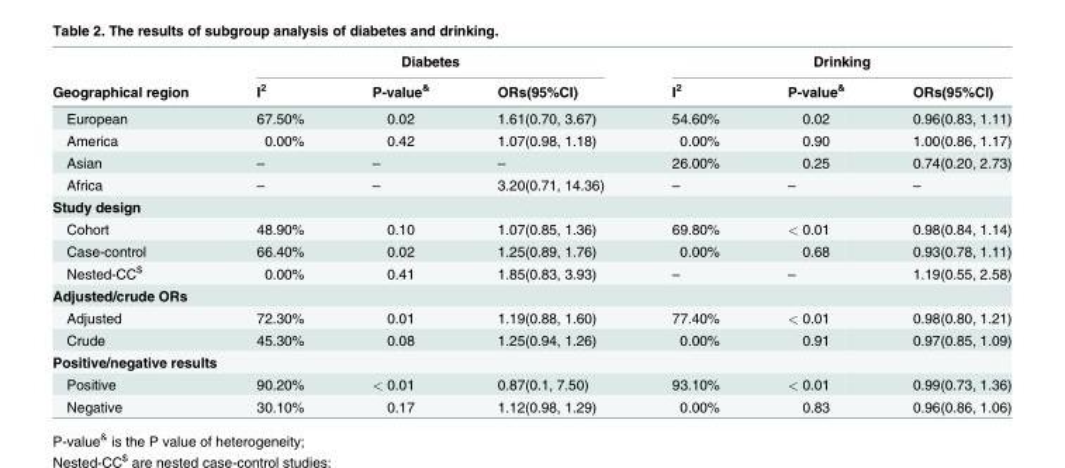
<table><thead><tr><td rowspan="2">Geographical region</td><td colspan="3">Diabetes</td><td colspan="3">Drinking</td></tr><tr><td>I<sup>2</sup></td><td>P-value<sup>&amp;</sup></td><td>ORs(95%CI)</td><td>I<sup>2</sup></td><td>P-value<sup>&amp;</sup></td><td>ORs(95%CI)</td></tr></thead><tbody><tr><td>European</td><td>67.50%</td><td>0.02</td><td>1.61(0.70, 3.67)</td><td>54.60%</td><td>0.02</td><td>0.96(0.83, 1.11)</td></tr><tr><td>America</td><td>0.00%</td><td>0.42</td><td>1.07(0.98, 1.18)</td><td>0.00%</td><td>0.90</td><td>1.00(0.86, 1.17)</td></tr><tr><td>Asian</td><td>–</td><td>–</td><td>–</td><td>26.00%</td><td>0.25</td><td>0.74(0.20, 2.73)</td></tr><tr><td>Africa</td><td>–</td><td>–</td><td>3.20(0.71, 14.36)</td><td>–</td><td>–</td><td>–</td></tr><tr><td colspan="7">Study design</td></tr><tr><td>Cohort</td><td>48.90%</td><td>0.10</td><td>1.07(0.85, 1.36)</td><td>69.80%</td><td>&lt; 0.01</td><td>0.98(0.84, 1.14)</td></tr><tr><td>Case-control</td><td>66.40%</td><td>0.02</td><td>1.25(0.89, 1.76)</td><td>0.00%</td><td>0.68</td><td>0.93(0.78, 1.11)</td></tr><tr><td>Nested-CC<sup>$</sup></td><td>0.00%</td><td>0.41</td><td>1.85(0.83, 3.93)</td><td>–</td><td>–</td><td>1.19(0.55, 2.58)</td></tr><tr><td colspan="7">Adjusted/crude ORs</td></tr><tr><td>Adjusted</td><td>72.30%</td><td>0.01</td><td>1.19(0.88, 1.60)</td><td>77.40%</td><td>&lt; 0.01</td><td>0.98(0.80, 1.21)</td></tr><tr><td>Crude</td><td>45.30%</td><td>0.08</td><td>1.25(0.94, 1.26)</td><td>0.00%</td><td>0.91</td><td>0.97(0.85, 1.09)</td></tr><tr><td colspan="7">Positive/negative results</td></tr><tr><td>Positive</td><td>90.20%</td><td>&lt; 0.01</td><td>0.87(0.1, 7.50)</td><td>93.10%</td><td>&lt; 0.01</td><td>0.99(0.73, 1.36)</td></tr><tr><td>Negative</td><td>30.10%</td><td>0.17</td><td>1.12(0.98, 1.29)</td><td>0.00%</td><td>0.83</td><td>0.96(0.86, 1.06)</td></tr></tbody></table>